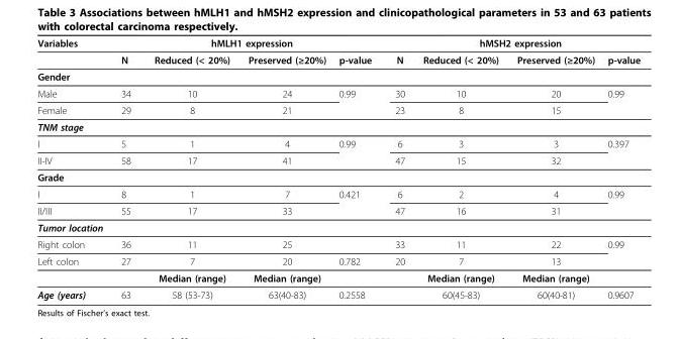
<table><thead><tr><td rowspan="2">Variables</td><td colspan="4">hMLH1 expression</td><td colspan="4">hMSH2 expression</td></tr><tr><td>N</td><td>Reduced (&lt; 20%)</td><td>Preserved (≥20%)</td><td>p-value</td><td>N</td><td>Reduced (&lt; 20%)</td><td>Preserved (≥20%)</td><td>p-value</td></tr></thead><tbody><tr><td colspan="9">Gender</td></tr><tr><td>Male</td><td>34</td><td>10</td><td>24</td><td>0.99</td><td>30</td><td>10</td><td>20</td><td>0.99</td></tr><tr><td>Female</td><td>29</td><td>8</td><td>21</td><td></td><td>23</td><td>8</td><td>15</td><td></td></tr><tr><td colspan="9">TNM stage</td></tr><tr><td>I</td><td>5</td><td>1</td><td>4</td><td>0.99</td><td>6</td><td>3</td><td>3</td><td>0.397</td></tr><tr><td>II-IV</td><td>58</td><td>17</td><td>41</td><td></td><td>47</td><td>15</td><td>32</td><td></td></tr><tr><td colspan="9">Grade</td></tr><tr><td>I</td><td>8</td><td>1</td><td>7</td><td>0.421</td><td>6</td><td>2</td><td>4</td><td>0.99</td></tr><tr><td>II/III</td><td>55</td><td>17</td><td>33</td><td></td><td>47</td><td>16</td><td>31</td><td></td></tr><tr><td colspan="9">Tumor location</td></tr><tr><td>Right colon</td><td>36</td><td>11</td><td>25</td><td></td><td>33</td><td>11</td><td>22</td><td>0.99</td></tr><tr><td rowspan="2">Left colon</td><td>27</td><td>7</td><td>20</td><td>0.782</td><td>20</td><td>7</td><td>13</td><td></td></tr><tr><td></td><td>Median (range)</td><td>Median (range)</td><td></td><td></td><td>Median (range)</td><td>Median (range)</td><td></td></tr><tr><td>Age (years)</td><td>63</td><td>58 (53-73)</td><td>63(40-83)</td><td>0.2558</td><td></td><td>60(45-83)</td><td>60(40-81)</td><td>0.9607</td></tr></tbody></table>